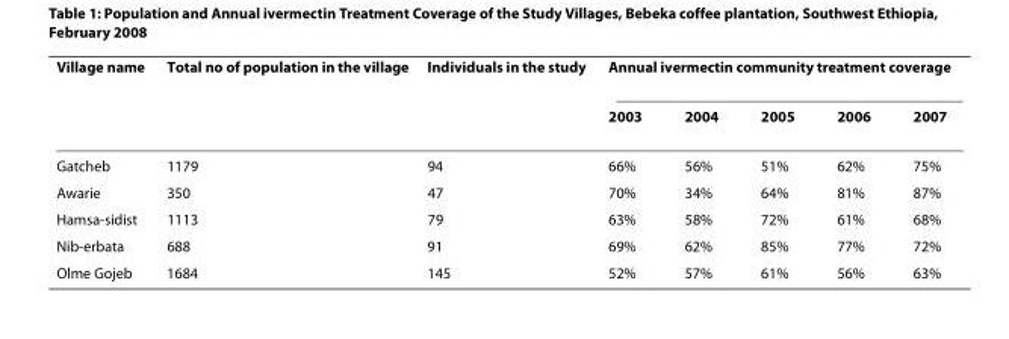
<table><thead><tr><td rowspan="2">Village name</td><td rowspan="2">Total no of population in the village</td><td rowspan="2">Individuals in the study</td><td colspan="5">Annual ivermectin community treatment coverage</td></tr><tr><td>2003</td><td>2004</td><td>2005</td><td>2006</td><td>2007</td></tr></thead><tbody><tr><td>Gatcheb</td><td>1179</td><td>94</td><td>66%</td><td>56%</td><td>51%</td><td>62%</td><td>75%</td></tr><tr><td>Awarie</td><td>350</td><td>47</td><td>70%</td><td>34%</td><td>64%</td><td>81%</td><td>87%</td></tr><tr><td>Hamsa-sidist</td><td>1113</td><td>79</td><td>63%</td><td>58%</td><td>72%</td><td>61%</td><td>68%</td></tr><tr><td>Nib-erbata</td><td>688</td><td>91</td><td>69%</td><td>62%</td><td>85%</td><td>77%</td><td>72%</td></tr><tr><td>Olme Gojeb</td><td>1684</td><td>145</td><td>52%</td><td>57%</td><td>61%</td><td>56%</td><td>63%</td></tr></tbody></table>